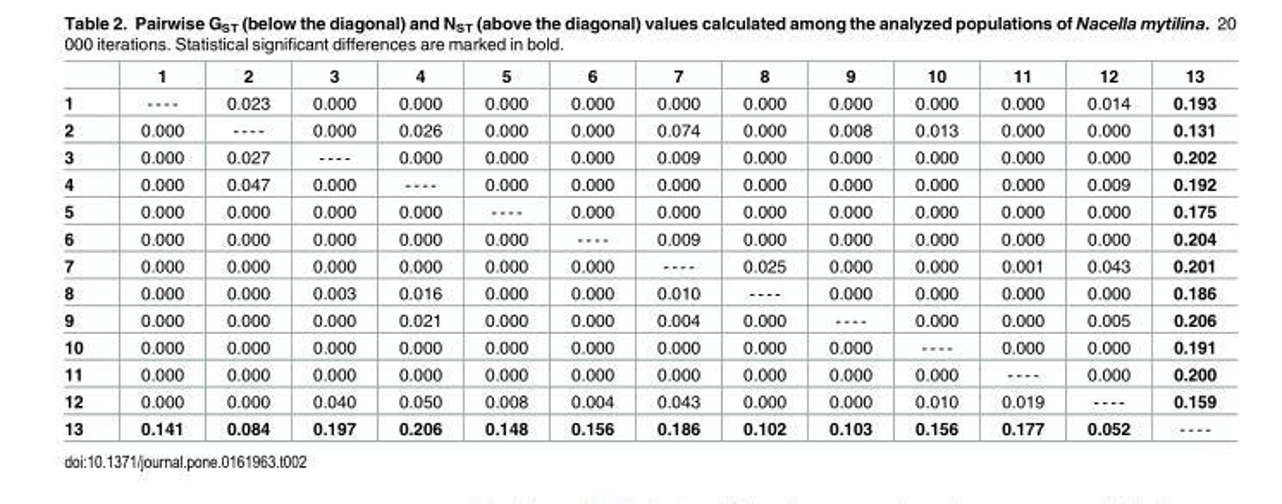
<table><thead><tr><td></td><td>1</td><td>2</td><td>3</td><td>4</td><td>5</td><td>6</td><td>7</td><td>8</td><td>9</td><td>10</td><td>11</td><td>12</td><td>13</td></tr></thead><tbody><tr><td>1</td><td>- - - -</td><td>0.023</td><td>0.000</td><td>0.000</td><td>0.000</td><td>0.000</td><td>0.000</td><td>0.000</td><td>0.000</td><td>0.000</td><td>0.000</td><td>0.014</td><td>0.193</td></tr><tr><td>2</td><td>0.000</td><td>- - - -</td><td>0.000</td><td>0.026</td><td>0.000</td><td>0.000</td><td>0.074</td><td>0.000</td><td>0.008</td><td>0.013</td><td>0.000</td><td>0.000</td><td>0.131</td></tr><tr><td>3</td><td>0.000</td><td>0.027</td><td>- - - -</td><td>0.000</td><td>0.000</td><td>0.000</td><td>0.009</td><td>0.000</td><td>0.000</td><td>0.000</td><td>0.000</td><td>0.000</td><td>0.202</td></tr><tr><td>4</td><td>0.000</td><td>0.047</td><td>0.000</td><td>- - - -</td><td>0.000</td><td>0.000</td><td>0.000</td><td>0.000</td><td>0.000</td><td>0.000</td><td>0.000</td><td>0.009</td><td>0.192</td></tr><tr><td>5</td><td>0.000</td><td>0.000</td><td>0.000</td><td>0.000</td><td>- - - -</td><td>0.000</td><td>0.000</td><td>0.000</td><td>0.000</td><td>0.000</td><td>0.000</td><td>0.000</td><td>0.175</td></tr><tr><td>6</td><td>0.000</td><td>0.000</td><td>0.000</td><td>0.000</td><td>0.000</td><td>- - - -</td><td>0.009</td><td>0.000</td><td>0.000</td><td>0.000</td><td>0.000</td><td>0.000</td><td>0.204</td></tr><tr><td>7</td><td>0.000</td><td>0.000</td><td>0.000</td><td>0.000</td><td>0.000</td><td>0.000</td><td>- - - -</td><td>0.025</td><td>0.000</td><td>0.000</td><td>0.001</td><td>0.043</td><td>0.201</td></tr><tr><td>8</td><td>0.000</td><td>0.000</td><td>0.003</td><td>0.016</td><td>0.000</td><td>0.000</td><td>0.010</td><td>- - - -</td><td>0.000</td><td>0.000</td><td>0.000</td><td>0.000</td><td>0.186</td></tr><tr><td>9</td><td>0.000</td><td>0.000</td><td>0.000</td><td>0.021</td><td>0.000</td><td>0.000</td><td>0.004</td><td>0.000</td><td>- - - -</td><td>0.000</td><td>0.000</td><td>0.005</td><td>0.206</td></tr><tr><td>10</td><td>0.000</td><td>0.000</td><td>0.000</td><td>0.000</td><td>0.000</td><td>0.000</td><td>0.000</td><td>0.000</td><td>0.000</td><td>- - - -</td><td>0.000</td><td>0.000</td><td>0.191</td></tr><tr><td>11</td><td>0.000</td><td>0.000</td><td>0.000</td><td>0.000</td><td>0.000</td><td>0.000</td><td>0.000</td><td>0.000</td><td>0.000</td><td>0.000</td><td>- - - -</td><td>0.000</td><td>0.200</td></tr><tr><td>12</td><td>0.000</td><td>0.000</td><td>0.040</td><td>0.050</td><td>0.008</td><td>0.004</td><td>0.043</td><td>0.000</td><td>0.000</td><td>0.010</td><td>0.019</td><td>- - - -</td><td>0.159</td></tr><tr><td>13</td><td>0.141</td><td>0.084</td><td>0.197</td><td>0.206</td><td>0.148</td><td>0.156</td><td>0.186</td><td>0.102</td><td>0.103</td><td>0.156</td><td>0.177</td><td>0.052</td><td>- - - -</td></tr></tbody></table>